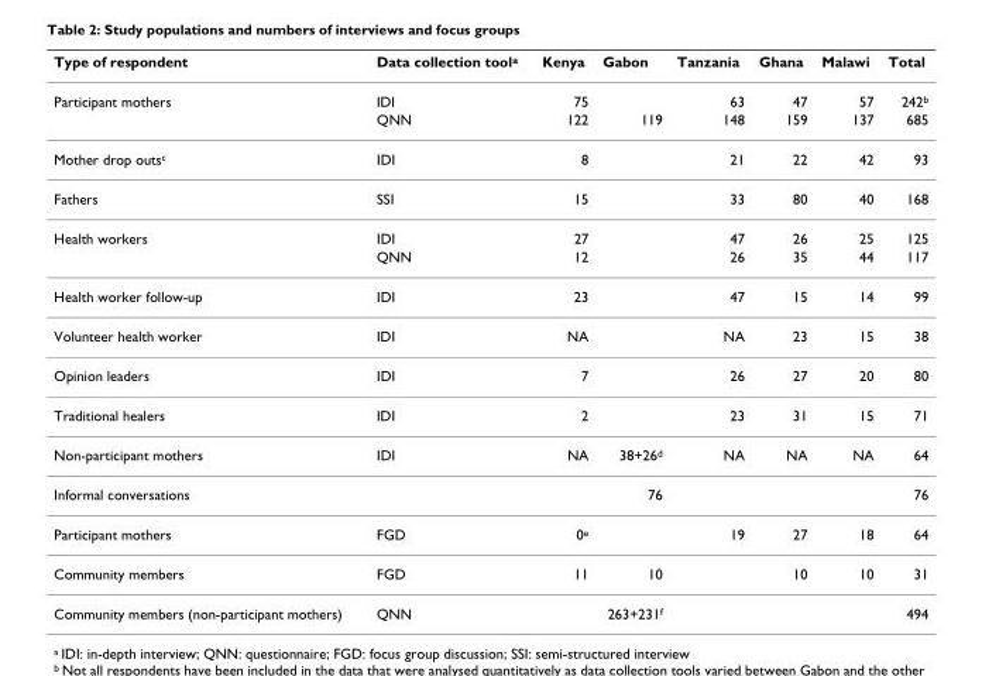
<table><thead><tr><td>Type of respondent</td><td>Data collection tool<sup>a</sup></td><td>Kenya</td><td>Gabon</td><td>Tanzania</td><td>Ghana</td><td>Malawi</td><td>Total</td></tr></thead><tbody><tr><td rowspan="2">Participant mothers</td><td>IDI</td><td>75</td><td></td><td>63</td><td>47</td><td>57</td><td>242<sup>b</sup></td></tr><tr><td>QNN</td><td>122</td><td>119</td><td>148</td><td>159</td><td>137</td><td>685</td></tr><tr><td>Mother drop outs<sup>c</sup></td><td>IDI</td><td>8</td><td></td><td>21</td><td>22</td><td>42</td><td>93</td></tr><tr><td>Fathers</td><td>SSI</td><td>15</td><td></td><td>33</td><td>80</td><td>40</td><td>168</td></tr><tr><td rowspan="2">Health workers</td><td>IDI</td><td>27</td><td></td><td>47</td><td>26</td><td>25</td><td>125</td></tr><tr><td>QNN</td><td>12</td><td></td><td>26</td><td>35</td><td>44</td><td>117</td></tr><tr><td>Health worker follow-up</td><td>IDI</td><td>23</td><td></td><td>47</td><td>15</td><td>14</td><td>99</td></tr><tr><td>Volunteer health worker</td><td>IDI</td><td>NA</td><td></td><td>NA</td><td>23</td><td>15</td><td>38</td></tr><tr><td>Opinion leaders</td><td>IDI</td><td>7</td><td></td><td>26</td><td>27</td><td>20</td><td>80</td></tr><tr><td>Traditional healers</td><td>IDI</td><td>2</td><td></td><td>23</td><td>31</td><td>15</td><td>71</td></tr><tr><td>Non-participant mothers</td><td>IDI</td><td>NA</td><td>38+26<sup>d</sup></td><td>NA</td><td>NA</td><td>NA</td><td>64</td></tr><tr><td>Informal conversations</td><td></td><td></td><td>76</td><td></td><td></td><td></td><td>76</td></tr><tr><td>Participant mothers</td><td>FGD</td><td>0<sup>e</sup></td><td></td><td>19</td><td>27</td><td>18</td><td>64</td></tr><tr><td>Community members</td><td>FGD</td><td>11</td><td>10</td><td></td><td>10</td><td>10</td><td>31</td></tr><tr><td>Community members (non-participant mothers)</td><td>QNN</td><td></td><td>263+231<sup>f</sup></td><td></td><td></td><td></td><td>494</td></tr></tbody></table>